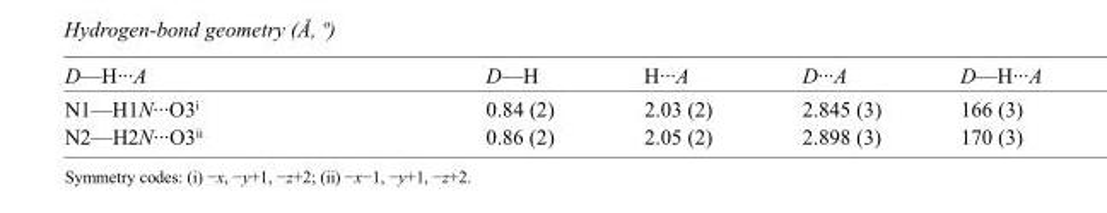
<table><tbody><tr><td>D—H···A</td><td>D—H</td><td>H···A</td><td>D···A</td><td>D—H···A</td></tr><tr><td>N1—H1N···O3<sup>i</sup></td><td>0.84 (2)</td><td>2.03 (2)</td><td>2.845 (3)</td><td>166 (3)</td></tr><tr><td>N2—H2N···O3<sup>ii</sup></td><td>0.86 (2)</td><td>2.05 (2)</td><td>2.898 (3)</td><td>170 (3)</td></tr></tbody></table>